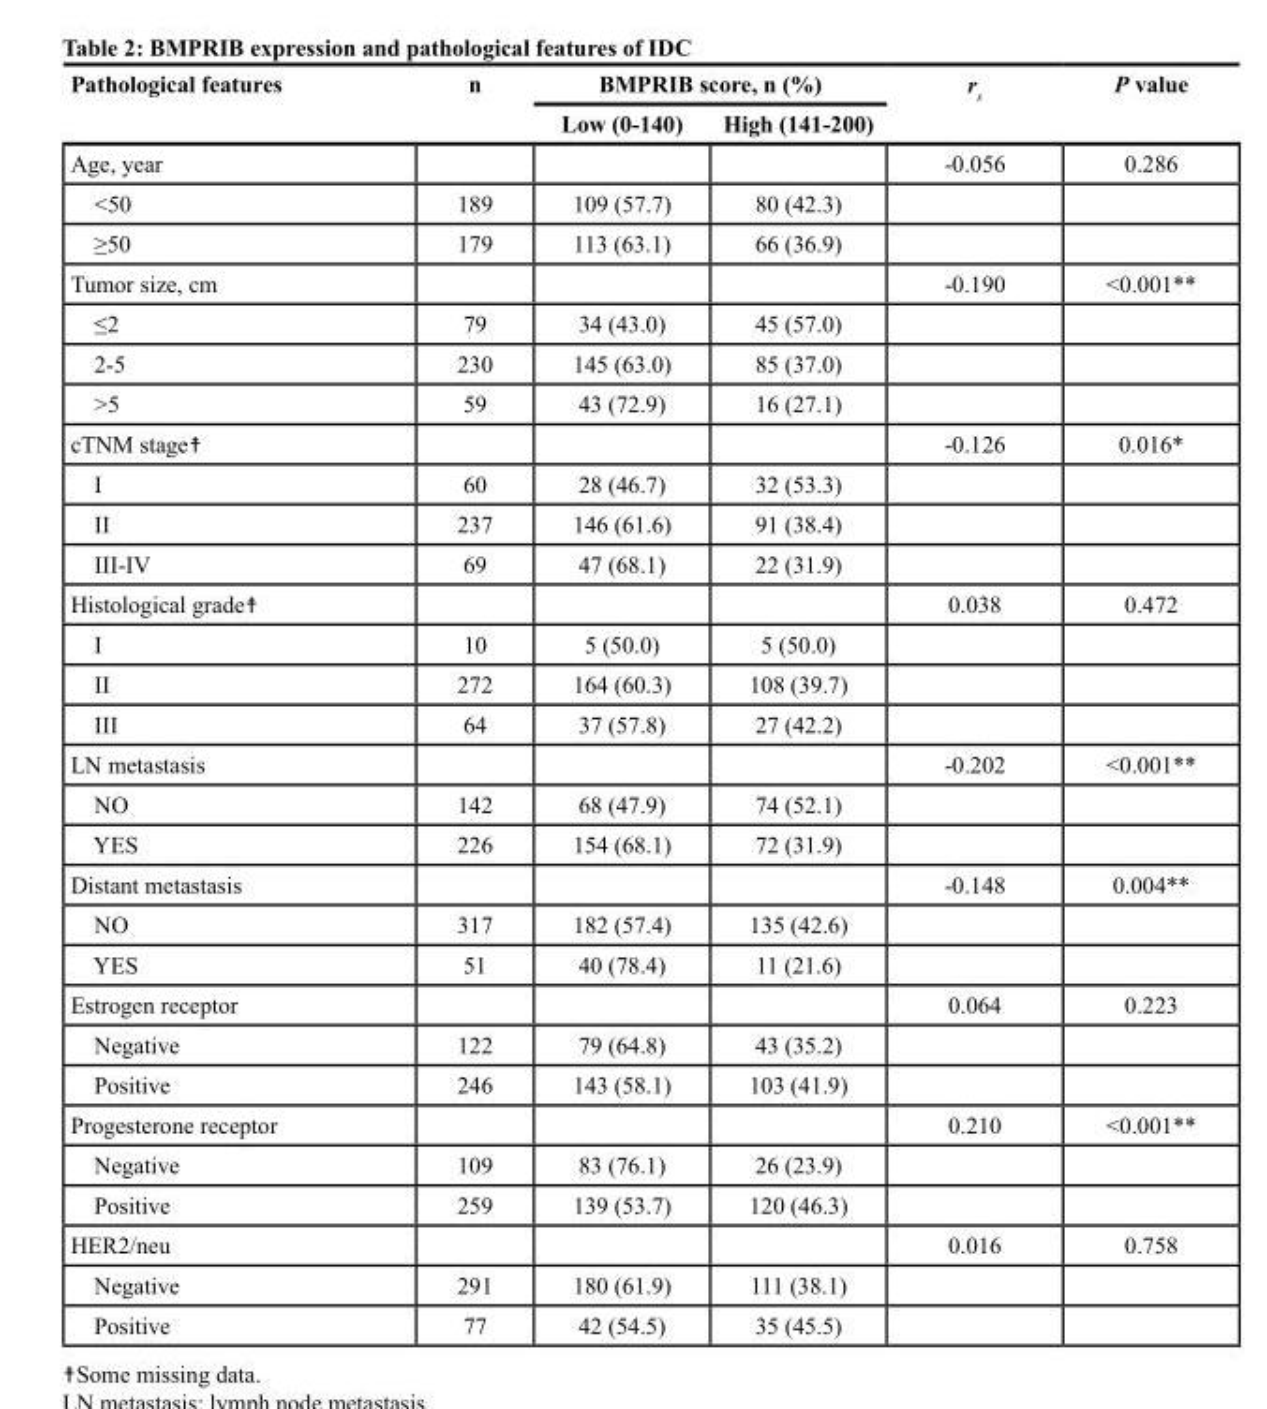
<table><thead><tr><td rowspan="2">Pathological features</td><td rowspan="2">n</td><td colspan="2">BMPRIB score, n (%)</td><td rowspan="2">rs</td><td rowspan="2">P value</td></tr><tr><td>Low (0-140)</td><td>High (141-200)</td></tr></thead><tbody><tr><td>Age, year</td><td></td><td></td><td></td><td>-0.056</td><td>0.286</td></tr><tr><td>&lt;50</td><td>189</td><td>109 (57.7)</td><td>80 (42.3)</td><td></td><td></td></tr><tr><td>≥50</td><td>179</td><td>113 (63.1)</td><td>66 (36.9)</td><td></td><td></td></tr><tr><td>Tumor size, cm</td><td></td><td></td><td></td><td>-0.190</td><td>&lt;0.001**</td></tr><tr><td>≤2</td><td>79</td><td>34 (43.0)</td><td>45 (57.0)</td><td></td><td></td></tr><tr><td>2-5</td><td>230</td><td>145 (63.0)</td><td>85 (37.0)</td><td></td><td></td></tr><tr><td>&gt;5</td><td>59</td><td>43 (72.9)</td><td>16 (27.1)</td><td></td><td></td></tr><tr><td>cTNM stage☨</td><td></td><td></td><td></td><td>-0.126</td><td>0.016*</td></tr><tr><td>I</td><td>60</td><td>28 (46.7)</td><td>32 (53.3)</td><td></td><td></td></tr><tr><td>II</td><td>237</td><td>146 (61.6)</td><td>91 (38.4)</td><td></td><td></td></tr><tr><td>III-IV</td><td>69</td><td>47 (68.1)</td><td>22 (31.9)</td><td></td><td></td></tr><tr><td>Histological grade☨</td><td></td><td></td><td></td><td>0.038</td><td>0.472</td></tr><tr><td>I</td><td>10</td><td>5 (50.0)</td><td>5 (50.0)</td><td></td><td></td></tr><tr><td>II</td><td>272</td><td>164 (60.3)</td><td>108 (39.7)</td><td></td><td></td></tr><tr><td>III</td><td>64</td><td>37 (57.8)</td><td>27 (42.2)</td><td></td><td></td></tr><tr><td>LN metastasis</td><td></td><td></td><td></td><td>-0.202</td><td>&lt;0.001**</td></tr><tr><td>NO</td><td>142</td><td>68 (47.9)</td><td>74 (52.1)</td><td></td><td></td></tr><tr><td>YES</td><td>226</td><td>154 (68.1)</td><td>72 (31.9)</td><td></td><td></td></tr><tr><td>Distant metastasis</td><td></td><td></td><td></td><td>-0.148</td><td>0.004**</td></tr><tr><td>NO</td><td>317</td><td>182 (57.4)</td><td>135 (42.6)</td><td></td><td></td></tr><tr><td>YES</td><td>51</td><td>40 (78.4)</td><td>11 (21.6)</td><td></td><td></td></tr><tr><td>Estrogen receptor</td><td></td><td></td><td></td><td>0.064</td><td>0.223</td></tr><tr><td>Negative</td><td>122</td><td>79 (64.8)</td><td>43 (35.2)</td><td></td><td></td></tr><tr><td>Positive</td><td>246</td><td>143 (58.1)</td><td>103 (41.9)</td><td></td><td></td></tr><tr><td>Progesterone receptor</td><td></td><td></td><td></td><td>0.210</td><td>&lt;0.001**</td></tr><tr><td>Negative</td><td>109</td><td>83 (76.1)</td><td>26 (23.9)</td><td></td><td></td></tr><tr><td>Positive</td><td>259</td><td>139 (53.7)</td><td>120 (46.3)</td><td></td><td></td></tr><tr><td>HER2/neu</td><td></td><td></td><td></td><td>0.016</td><td>0.758</td></tr><tr><td>Negative</td><td>291</td><td>180 (61.9)</td><td>111 (38.1)</td><td></td><td></td></tr><tr><td>Positive</td><td>77</td><td>42 (54.5)</td><td>35 (45.5)</td><td></td><td></td></tr></tbody></table>